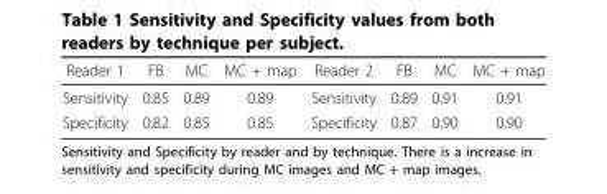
<table><thead><tr><td>Reader 1</td><td>FB</td><td>MC</td><td>MC + map</td><td>Reader 2</td><td>FB</td><td>MC</td><td>MC + map</td></tr></thead><tbody><tr><td>Sensitivity</td><td>0.85</td><td>0.89</td><td>0.89</td><td>Sensitivity</td><td>0.89</td><td>0.91</td><td>0.91</td></tr><tr><td>Specificity</td><td>0.82</td><td>0.85</td><td>0.85</td><td>Specificity</td><td>0.87</td><td>0.90</td><td>0.90</td></tr></tbody></table>